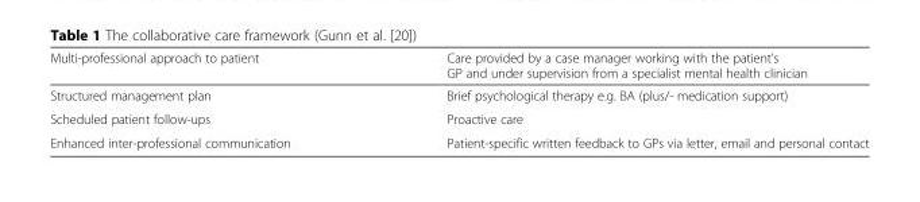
<table><thead><tr><td>Multi-professional approach to patient</td><td>Care provided by a case manager working with the patient’s GP and under supervision from a specialist mental health clinician</td></tr></thead><tbody><tr><td>Structured management plan</td><td>Brief psychological therapy e.g. BA (plus/- medication support)</td></tr><tr><td>Scheduled patient follow-ups</td><td>Proactive care</td></tr><tr><td>Enhanced inter-professional communication</td><td>Patient-specific written feedback to GPs via letter, email and personal contact</td></tr></tbody></table>